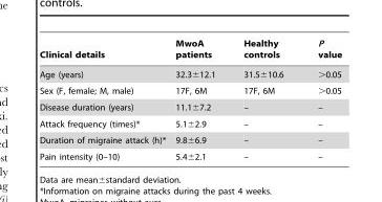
<table><thead><tr><td>Clinical details</td><td>MwoA patients</td><td>Healthy controls</td><td>P value</td></tr></thead><tbody><tr><td>Age (years)</td><td>32.3±12.1</td><td>31.5±10.6</td><td>&gt;0.05</td></tr><tr><td>Sex (F, female; M, male)</td><td>17F, 6M</td><td>17F, 6M</td><td>&gt;0.05</td></tr><tr><td>Disease duration (years)</td><td>11.1±7.2</td><td>–</td><td>–</td></tr><tr><td>Attack frequency (times)*</td><td>5.1±2.9</td><td>–</td><td>–</td></tr><tr><td>Duration of migraine attack (h)*</td><td>9.8±6.9</td><td>–</td><td>–</td></tr><tr><td>Pain intensity (0–10)</td><td>5.4±2.1</td><td>–</td><td>–</td></tr></tbody></table>